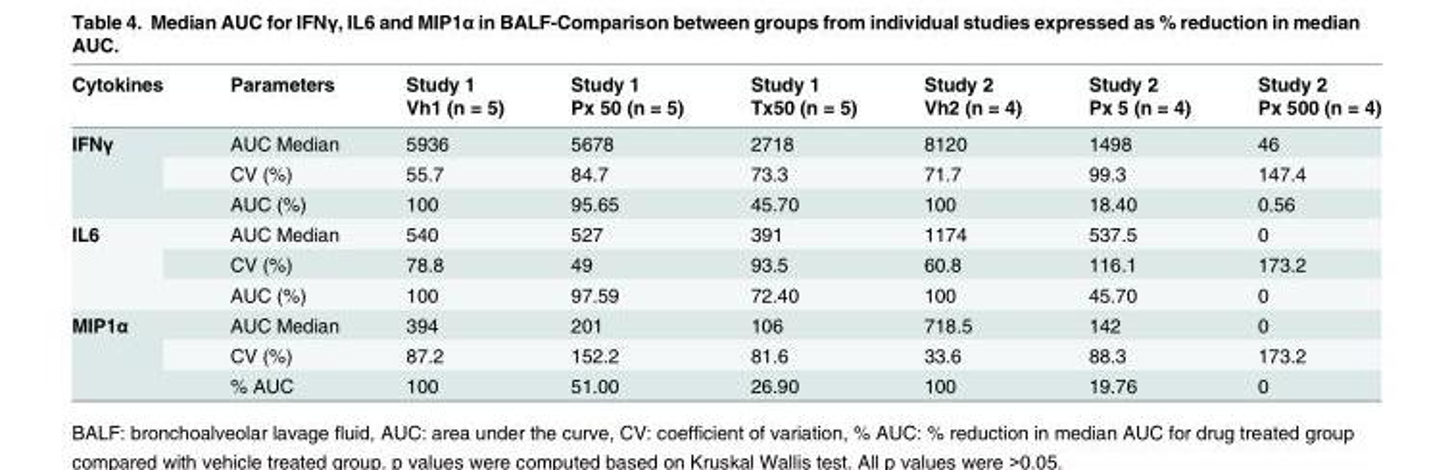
<table><thead><tr><td rowspan="2">Cytokines</td><td rowspan="2">Parameters</td><td rowspan="2">Study 1 Vh1 (n = 5)</td><td rowspan="2">Study 1 Px 50 (n = 5)</td><td rowspan="2">Study 1 Tx50 (n = 5)</td><td rowspan="2">Study 2 Vh2 (n = 4)</td><td rowspan="2">Study 2 Px 5 (n = 4)</td><td rowspan="2">Study 2 Px 500 (n = 4)</td></tr><tr></tr></thead><tbody><tr><td rowspan="3">IFNγ</td><td>AUC Median</td><td>5936</td><td>5678</td><td>2718</td><td>8120</td><td>1498</td><td>46</td></tr><tr><td>CV (%)</td><td>55.7</td><td>84.7</td><td>73.3</td><td>71.7</td><td>99.3</td><td>147.4</td></tr><tr><td>AUC (%)</td><td>100</td><td>95.65</td><td>45.70</td><td>100</td><td>18.40</td><td>0.56</td></tr><tr><td rowspan="3">IL6</td><td>AUC Median</td><td>540</td><td>527</td><td>391</td><td>1174</td><td>537.5</td><td>0</td></tr><tr><td>CV (%)</td><td>78.8</td><td>49</td><td>93.5</td><td>60.8</td><td>116.1</td><td>173.2</td></tr><tr><td>AUC (%)</td><td>100</td><td>97.59</td><td>72.40</td><td>100</td><td>45.70</td><td>0</td></tr><tr><td rowspan="3">MIP1α</td><td>AUC Median</td><td>394</td><td>201</td><td>106</td><td>718.5</td><td>142</td><td>0</td></tr><tr><td>CV (%)</td><td>87.2</td><td>152.2</td><td>81.6</td><td>33.6</td><td>88.3</td><td>173.2</td></tr><tr><td>% AUC</td><td>100</td><td>51.00</td><td>26.90</td><td>100</td><td>19.76</td><td>0</td></tr></tbody></table>